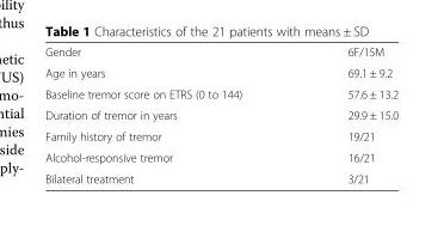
<table><tbody><tr><td>Gender</td><td>6F/15M</td></tr><tr><td>Age in years</td><td>69.1 ± 9.2</td></tr><tr><td>Baseline tremor score on ETRS (0 to 144)</td><td>57.6 ± 13.2</td></tr><tr><td>Duration of tremor in years</td><td>29.9 ± 15.0</td></tr><tr><td>Family history of tremor</td><td>19/21</td></tr><tr><td>Alcohol-responsive tremor</td><td>16/21</td></tr><tr><td>Bilateral treatment</td><td>3/21</td></tr></tbody></table>